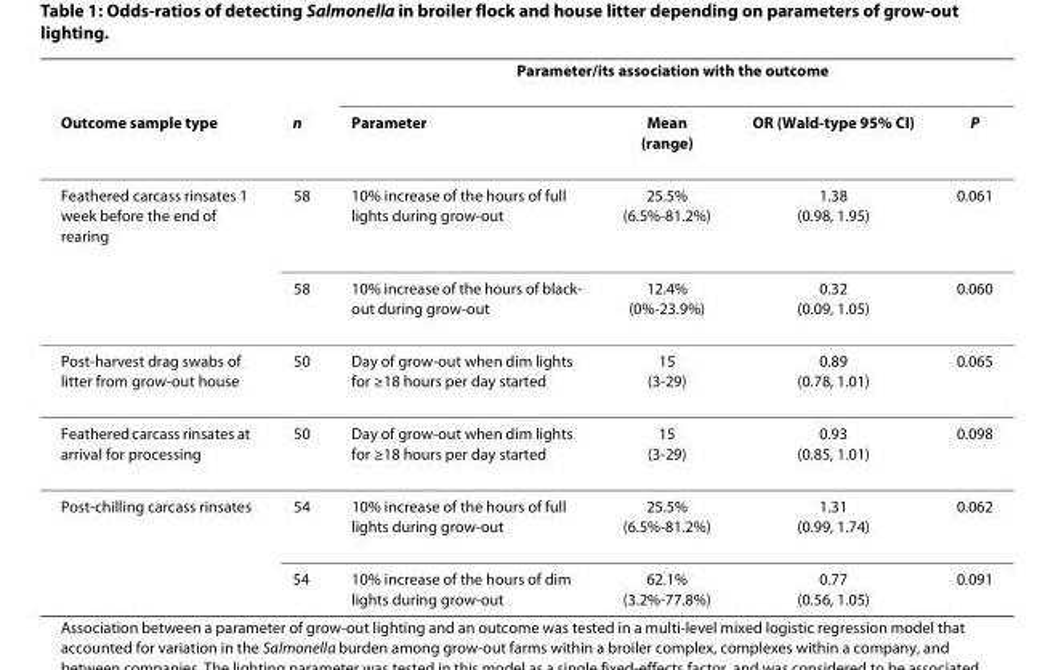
<table><thead><tr><td rowspan="2">Outcome sample type</td><td rowspan="2">n</td><td colspan="4">Parameter/its association with the outcome</td></tr><tr><td>Parameter</td><td>Mean (range)</td><td>OR (Wald-type 95% CI)</td><td>P</td></tr></thead><tbody><tr><td rowspan="2">Feathered carcass rinsates 1 week before the end of rearing</td><td>58</td><td>10% increase of the hours of full lights during grow-out</td><td>25.5% (6.5%-81.2%)</td><td>1.38 (0.98, 1.95)</td><td>0.061</td></tr><tr><td>58</td><td>10% increase of the hours of black- out during grow-out</td><td>12.4% (0%-23.9%)</td><td>0.32 (0.09, 1.05)</td><td>0.060</td></tr><tr><td>Post-harvest drag swabs of litter from grow-out house</td><td>50</td><td>Day of grow-out when dim lights for ≥18 hours per day started</td><td>15 (3-29)</td><td>0.89 (0.78, 1.01)</td><td>0.065</td></tr><tr><td>Feathered carcass rinsates at arrival for processing</td><td>50</td><td>Day of grow-out when dim lights for ≥18 hours per day started</td><td>15 (3-29)</td><td>0.93 (0.85, 1.01)</td><td>0.098</td></tr><tr><td rowspan="2">Post-chilling carcass rinsates</td><td>54</td><td>10% increase of the hours of full lights during grow-out</td><td>25.5% (6.5%-81.2%)</td><td>1.31 (0.99, 1.74)</td><td>0.062</td></tr><tr><td>54</td><td>10% increase of the hours of dim lights during grow-out</td><td>62.1% (3.2%-77.8%)</td><td>0.77 (0.56, 1.05)</td><td>0.091</td></tr></tbody></table>